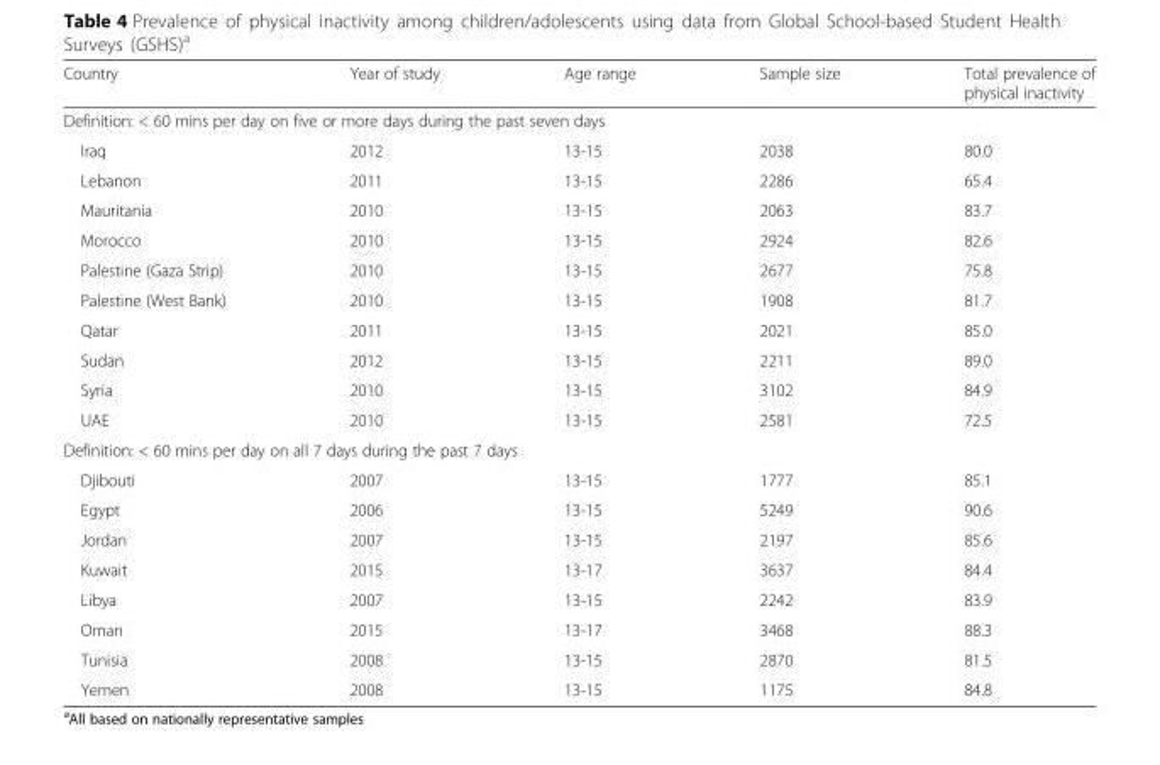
<table><thead><tr><td>Country</td><td>Year of study</td><td>Age range</td><td>Sample size</td><td>Total prevalence of physical inactivity</td></tr></thead><tbody><tr><td colspan="5">Definition: &lt; 60 mins per day on five or more days during the past seven days</td></tr><tr><td>Iraq</td><td>2012</td><td>13-15</td><td>2038</td><td>80.0</td></tr><tr><td>Lebanon</td><td>2011</td><td>13-15</td><td>2286</td><td>65.4</td></tr><tr><td>Mauritania</td><td>2010</td><td>13-15</td><td>2063</td><td>83.7</td></tr><tr><td>Morocco</td><td>2010</td><td>13-15</td><td>2924</td><td>82.6</td></tr><tr><td>Palestine (Gaza Strip)</td><td>2010</td><td>13-15</td><td>2677</td><td>75.8</td></tr><tr><td>Palestine (West Bank)</td><td>2010</td><td>13-15</td><td>1908</td><td>81.7</td></tr><tr><td>Qatar</td><td>2011</td><td>13-15</td><td>2021</td><td>85.0</td></tr><tr><td>Sudan</td><td>2012</td><td>13-15</td><td>2211</td><td>89.0</td></tr><tr><td>Syria</td><td>2010</td><td>13-15</td><td>3102</td><td>84.9</td></tr><tr><td>UAE</td><td>2010</td><td>13-15</td><td>2581</td><td>72.5</td></tr><tr><td colspan="5">Definition: &lt; 60 mins per day on all 7 days during the past 7 days</td></tr><tr><td>Djibouti</td><td>2007</td><td>13-15</td><td>1777</td><td>85.1</td></tr><tr><td>Egypt</td><td>2006</td><td>13-15</td><td>5249</td><td>90.6</td></tr><tr><td>Jordan</td><td>2007</td><td>13-15</td><td>2197</td><td>85.6</td></tr><tr><td>Kuwait</td><td>2015</td><td>13-17</td><td>3637</td><td>84.4</td></tr><tr><td>Libya</td><td>2007</td><td>13-15</td><td>2242</td><td>83.9</td></tr><tr><td>Oman</td><td>2015</td><td>13-17</td><td>3468</td><td>88.3</td></tr><tr><td>Tunisia</td><td>2008</td><td>13-15</td><td>2870</td><td>81.5</td></tr><tr><td>Yemen</td><td>2008</td><td>13-15</td><td>1175</td><td>84.8</td></tr></tbody></table>